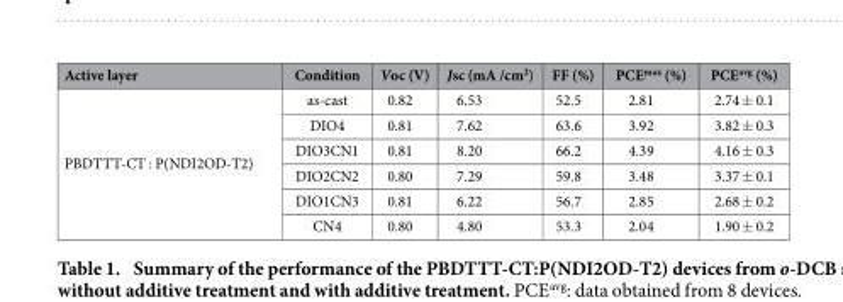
<table><thead><tr><td>Active layer</td><td>Condition</td><td>Voc (V)</td><td>Jsc (mA /cm<sup>2</sup>)</td><td>FF (%)</td><td>PCE<sup>max</sup> (%)</td><td>PCE<sup>avg</sup> (%)</td></tr></thead><tbody><tr><td rowspan="6">PBDTTT-CT : P(NDI2OD-T2)</td><td>as-cast</td><td>0.82</td><td>6.53</td><td>52.5</td><td>2.81</td><td>2.74 ± 0.1</td></tr><tr><td>DIO4</td><td>0.81</td><td>7.62</td><td>63.6</td><td>3.92</td><td>3.82 ± 0.3</td></tr><tr><td>DIO3CN1</td><td>0.81</td><td>8.20</td><td>66.2</td><td>4.39</td><td>4.16 ± 0.3</td></tr><tr><td>DIO2CN2</td><td>0.80</td><td>7.29</td><td>59.8</td><td>3.48</td><td>3.37 ± 0.1</td></tr><tr><td>DIO1CN3</td><td>0.81</td><td>6.22</td><td>56.7</td><td>2.85</td><td>2.68 ± 0.2</td></tr><tr><td>CN4</td><td>0.80</td><td>4.80</td><td>53.3</td><td>2.04</td><td>1.90 ± 0.2</td></tr></tbody></table>